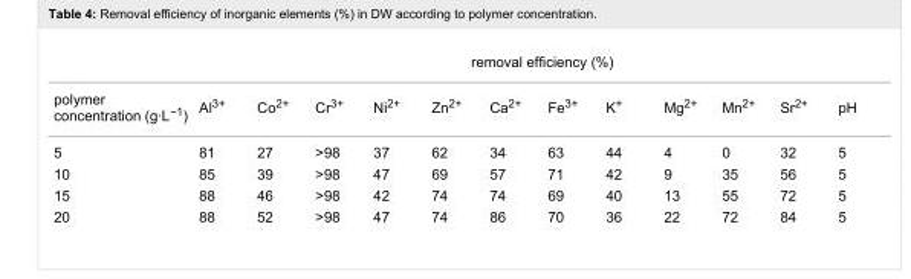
<table><thead><tr><td rowspan="2">polymer concentration (g·L<sup>−1</sup>)</td><td rowspan="2">Al<sup>3+</sup></td><td colspan="10">removal efficiency (%)</td><td rowspan="2">pH</td></tr><tr><td>Co<sup>2+</sup></td><td>Cr<sup>3+</sup></td><td>Ni<sup>2+</sup></td><td>Zn<sup>2+</sup></td><td>Ca<sup>2+</sup></td><td>Fe<sup>3+</sup></td><td>K<sup>+</sup></td><td>Mg<sup>2+</sup></td><td>Mn<sup>2+</sup></td><td>Sr<sup>2+</sup></td></tr></thead><tbody><tr><td>5</td><td>81</td><td>27</td><td>&gt;98</td><td>37</td><td>62</td><td>34</td><td>63</td><td>44</td><td>4</td><td>0</td><td>32</td><td>5</td></tr><tr><td>10</td><td>85</td><td>39</td><td>&gt;98</td><td>47</td><td>69</td><td>57</td><td>71</td><td>42</td><td>9</td><td>35</td><td>56</td><td>5</td></tr><tr><td>15</td><td>88</td><td>46</td><td>&gt;98</td><td>42</td><td>74</td><td>74</td><td>69</td><td>40</td><td>13</td><td>55</td><td>72</td><td>5</td></tr><tr><td>20</td><td>88</td><td>52</td><td>&gt;98</td><td>47</td><td>74</td><td>86</td><td>70</td><td>36</td><td>22</td><td>72</td><td>84</td><td>5</td></tr></tbody></table>